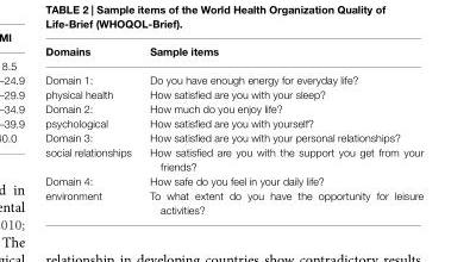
<table><thead><tr><td>Domains</td><td>Sample items</td></tr></thead><tbody><tr><td>Domain 1:</td><td>Do you have enough energy for everyday life?</td></tr><tr><td>physical health</td><td>How satisfied are you with your sleep?</td></tr><tr><td>Domain 2:</td><td>How much do you enjoy life?</td></tr><tr><td>psychological</td><td>How satisfied are you with yourself?</td></tr><tr><td>Domain 3:</td><td>How satisfied are you with your personal relationships?</td></tr><tr><td>social relationships</td><td>How satisfied are you with the support you get from your friends?</td></tr><tr><td>Domain 4:</td><td>How safe do you feel in your daily life?</td></tr><tr><td>environment</td><td>To what extent do you have the opportunity for leisure activities?</td></tr></tbody></table>